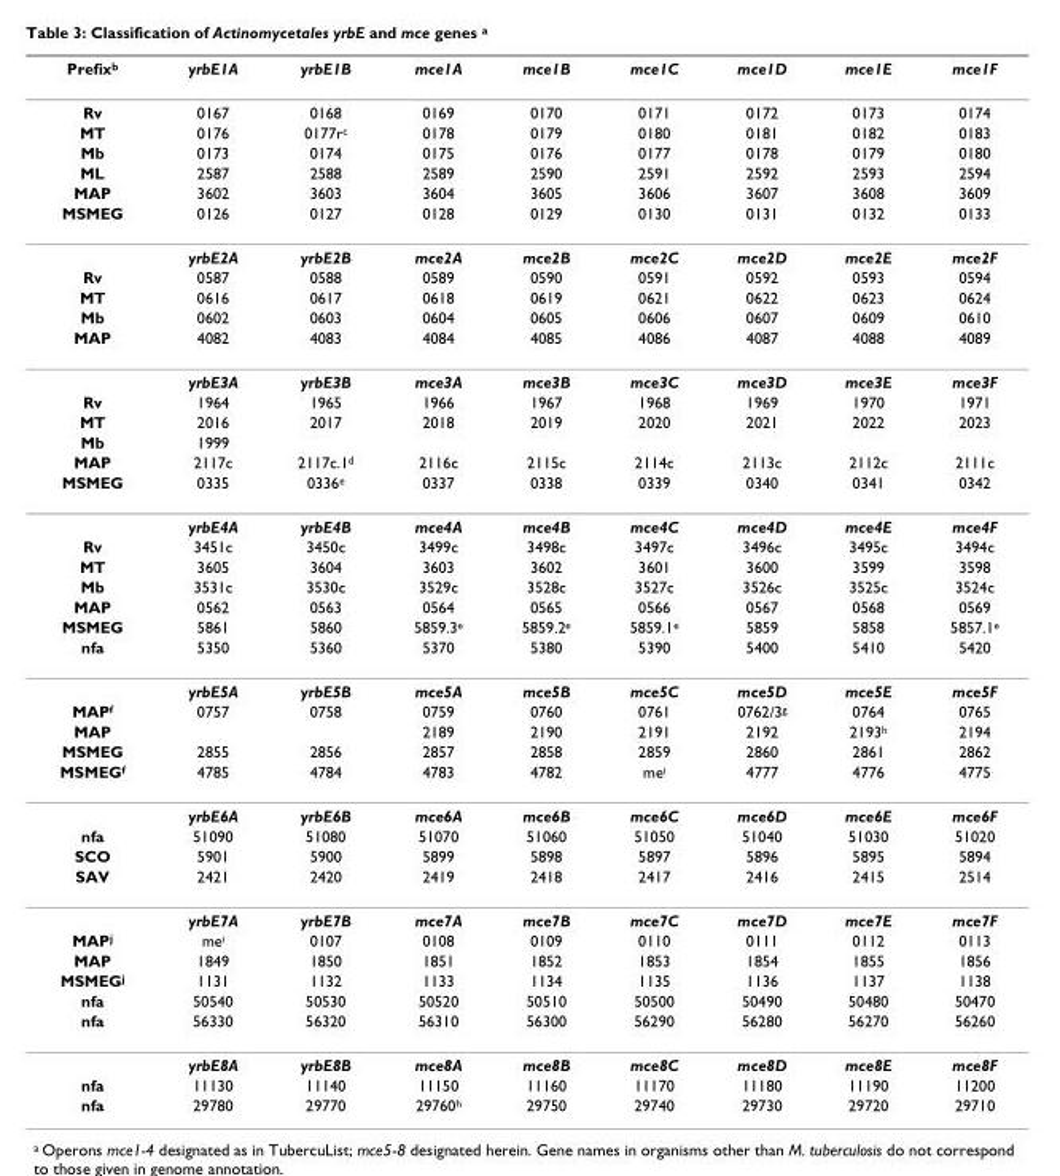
<table><thead><tr><td>Prefixb</td><td>yrbE1A</td><td>yrbE1B</td><td>mce1A</td><td>mce1B</td><td>mce1C</td><td>mce1D</td><td>mce1E</td><td>mce1F</td></tr></thead><tbody><tr><td>Rv</td><td>0167</td><td>0168</td><td>0169</td><td>0170</td><td>0171</td><td>0172</td><td>0173</td><td>0174</td></tr><tr><td>MT</td><td>0176</td><td>0177rc</td><td>0178</td><td>0179</td><td>0180</td><td>0181</td><td>0182</td><td>0183</td></tr><tr><td>Mb</td><td>0173</td><td>0174</td><td>0175</td><td>0176</td><td>0177</td><td>0178</td><td>0179</td><td>0180</td></tr><tr><td>ML</td><td>2587</td><td>2588</td><td>2589</td><td>2590</td><td>2591</td><td>2592</td><td>2593</td><td>2594</td></tr><tr><td>MAP</td><td>3602</td><td>3603</td><td>3604</td><td>3605</td><td>3606</td><td>3607</td><td>3608</td><td>3609</td></tr><tr><td rowspan="2">MSMEG</td><td>0126</td><td>0127</td><td>0128</td><td>0129</td><td>0130</td><td>0131</td><td>0132</td><td>0133</td></tr><tr><td>yrbE2A</td><td>yrbE2B</td><td>mce2A</td><td>mce2B</td><td>mce2C</td><td>mce2D</td><td>mce2E</td><td>mce2F</td></tr><tr><td>Rv</td><td>0587</td><td>0588</td><td>0589</td><td>0590</td><td>0591</td><td>0592</td><td>0593</td><td>0594</td></tr><tr><td>MT</td><td>0616</td><td>0617</td><td>0618</td><td>0619</td><td>0621</td><td>0622</td><td>0623</td><td>0624</td></tr><tr><td>Mb</td><td>0602</td><td>0603</td><td>0604</td><td>0605</td><td>0606</td><td>0607</td><td>0609</td><td>0610</td></tr><tr><td rowspan="2">MAP</td><td>4082</td><td>4083</td><td>4084</td><td>4085</td><td>4086</td><td>4087</td><td>4088</td><td>4089</td></tr><tr><td>yrbE3A</td><td>yrbE3B</td><td>mce3A</td><td>mce3B</td><td>mce3C</td><td>mce3D</td><td>mce3E</td><td>mce3F</td></tr><tr><td>Rv</td><td>1964</td><td>1965</td><td>1966</td><td>1967</td><td>1968</td><td>1969</td><td>1970</td><td>1971</td></tr><tr><td>MT</td><td>2016</td><td>2017</td><td>2018</td><td>2019</td><td>2020</td><td>2021</td><td>2022</td><td>2023</td></tr><tr><td>Mb</td><td>1999</td><td></td><td></td><td></td><td></td><td></td><td></td><td></td></tr><tr><td>MAP</td><td>2117c</td><td>2117c.1d</td><td>2116c</td><td>2115c</td><td>2114c</td><td>2113c</td><td>2112c</td><td>2111c</td></tr><tr><td rowspan="2">MSMEG</td><td>0335</td><td>0336e</td><td>0337</td><td>0338</td><td>0339</td><td>0340</td><td>0341</td><td>0342</td></tr><tr><td>yrbE4A</td><td>yrbE4B</td><td>mce4A</td><td>mce4B</td><td>mce4C</td><td>mce4D</td><td>mce4E</td><td>mce4F</td></tr><tr><td>Rv</td><td>3451c</td><td>3450c</td><td>3499c</td><td>3498c</td><td>3497c</td><td>3496c</td><td>3495c</td><td>3494c</td></tr><tr><td>MT</td><td>3605</td><td>3604</td><td>3603</td><td>3602</td><td>3601</td><td>3600</td><td>3599</td><td>3598</td></tr><tr><td>Mb</td><td>3531c</td><td>3530c</td><td>3529c</td><td>3528c</td><td>3527c</td><td>3526c</td><td>3525c</td><td>3524c</td></tr><tr><td>MAP</td><td>0562</td><td>0563</td><td>0564</td><td>0565</td><td>0566</td><td>0567</td><td>0568</td><td>0569</td></tr><tr><td>MSMEG</td><td>5861</td><td>5860</td><td>5859.3e</td><td>5859.2e</td><td>5859.1e</td><td>5859</td><td>5858</td><td>5857.1e</td></tr><tr><td rowspan="2">nfa</td><td>5350</td><td>5360</td><td>5370</td><td>5380</td><td>5390</td><td>5400</td><td>5410</td><td>5420</td></tr><tr><td>yrbE5A</td><td>yrbE5B</td><td>mce5A</td><td>mce5B</td><td>mce5C</td><td>mce5D</td><td>mce5E</td><td>mce5F</td></tr><tr><td>MAPf</td><td>0757</td><td>0758</td><td>0759</td><td>0760</td><td>0761</td><td>0762/3g</td><td>0764</td><td>0765</td></tr><tr><td>MAP</td><td></td><td></td><td>2189</td><td>2190</td><td>2191</td><td>2192</td><td>2193h</td><td>2194</td></tr><tr><td>MSMEG</td><td>2855</td><td>2856</td><td>2857</td><td>2858</td><td>2859</td><td>2860</td><td>2861</td><td>2862</td></tr><tr><td rowspan="2">MSMEGf</td><td>4785</td><td>4784</td><td>4783</td><td>4782</td><td>mei</td><td>4777</td><td>4776</td><td>4775</td></tr><tr><td>yrbE6A</td><td>yrbE6B</td><td>mce6A</td><td>mce6B</td><td>mce6C</td><td>mce6D</td><td>mce6E</td><td>mce6F</td></tr><tr><td>nfa</td><td>51090</td><td>51080</td><td>51070</td><td>51060</td><td>51050</td><td>51040</td><td>51030</td><td>51020</td></tr><tr><td>SCO</td><td>5901</td><td>5900</td><td>5899</td><td>5898</td><td>5897</td><td>5896</td><td>5895</td><td>5894</td></tr><tr><td rowspan="2">SAV</td><td>2421</td><td>2420</td><td>2419</td><td>2418</td><td>2417</td><td>2416</td><td>2415</td><td>2514</td></tr><tr><td>yrbE7A</td><td>yrbE7B</td><td>mce7A</td><td>mce7B</td><td>mce7C</td><td>mce7D</td><td>mce7E</td><td>mce7F</td></tr><tr><td>MAPj</td><td>mei</td><td>0107</td><td>0108</td><td>0109</td><td>0110</td><td>0111</td><td>0112</td><td>0113</td></tr><tr><td>MAP</td><td>1849</td><td>1850</td><td>1851</td><td>1852</td><td>1853</td><td>1854</td><td>1855</td><td>1856</td></tr><tr><td>MSMEGj</td><td>1131</td><td>1132</td><td>1133</td><td>1134</td><td>1135</td><td>1136</td><td>1137</td><td>1138</td></tr><tr><td>nfa</td><td>50540</td><td>50530</td><td>50520</td><td>50510</td><td>50500</td><td>50490</td><td>50480</td><td>50470</td></tr><tr><td rowspan="2">nfa</td><td>56330</td><td>56320</td><td>56310</td><td>56300</td><td>56290</td><td>56280</td><td>56270</td><td>56260</td></tr><tr><td>yrbE8A</td><td>yrbE8B</td><td>mce8A</td><td>mce8B</td><td>mce8C</td><td>mce8D</td><td>mce8E</td><td>mce8F</td></tr><tr><td>nfa</td><td>11130</td><td>11140</td><td>11150</td><td>11160</td><td>11170</td><td>11180</td><td>11190</td><td>11200</td></tr><tr><td>nfa</td><td>29780</td><td>29770</td><td>29760h</td><td>29750</td><td>29740</td><td>29730</td><td>29720</td><td>29710</td></tr></tbody></table>